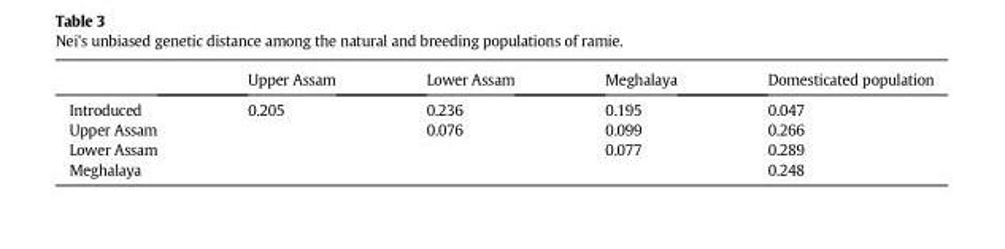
<table><thead><tr><td></td><td>Upper Assam</td><td>Lower Assam</td><td>Meghalaya</td><td>Domesticated population</td></tr></thead><tbody><tr><td>Introduced</td><td>0.205</td><td>0.236</td><td>0.195</td><td>0.047</td></tr><tr><td>Upper Assam</td><td></td><td>0.076</td><td>0.099</td><td>0.266</td></tr><tr><td>Lower Assam</td><td></td><td></td><td>0.077</td><td>0.289</td></tr><tr><td>Meghalaya</td><td></td><td></td><td></td><td>0.248</td></tr></tbody></table>